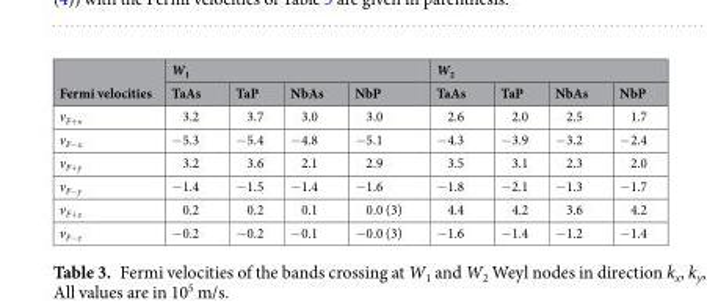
<table><thead><tr><td rowspan="2">Fermi velocities</td><td colspan="4">W<sub>1</sub></td><td colspan="4">W<sub>2</sub></td></tr><tr><td>TaAs</td><td>TaP</td><td>NbAs</td><td>NbP</td><td>TaAs</td><td>TaP</td><td>NbAs</td><td>NbP</td></tr></thead><tbody><tr><td>v<sub>F+x</sub></td><td>3.2</td><td>3.7</td><td>3.0</td><td>3.0</td><td>2.6</td><td>2.0</td><td>2.5</td><td>1.7</td></tr><tr><td>v<sub>F−x</sub></td><td>−5.3</td><td>−5.4</td><td>−4.8</td><td>−5.1</td><td>−4.3</td><td>−3.9</td><td>−3.2</td><td>−2.4</td></tr><tr><td>v<sub>F+y</sub></td><td>3.2</td><td>3.6</td><td>2.1</td><td>2.9</td><td>3.5</td><td>3.1</td><td>2.3</td><td>2.0</td></tr><tr><td>v<sub>F−y</sub></td><td>−1.4</td><td>−1.5</td><td>−1.4</td><td>−1.6</td><td>−1.8</td><td>−2.1</td><td>−1.3</td><td>−1.7</td></tr><tr><td>v<sub>F+z</sub></td><td>0.2</td><td>0.2</td><td>0.1</td><td>0.0 (3)</td><td>4.4</td><td>4.2</td><td>3.6</td><td>4.2</td></tr><tr><td>v<sub>F−z</sub></td><td>−0.2</td><td>−0.2</td><td>−0.1</td><td>−0.0 (3)</td><td>−1.6</td><td>−1.4</td><td>−1.2</td><td>−1.4</td></tr></tbody></table>